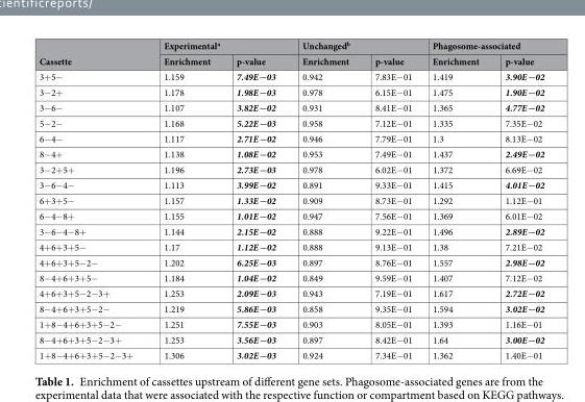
<table><thead><tr><td rowspan="2">Cassette</td><td colspan="2">Experimental<sup>a</sup></td><td colspan="2">Unchanged<sup>b</sup></td><td colspan="2">Phagosome-associated</td></tr><tr><td>Enrichment</td><td>p-value</td><td>Enrichment</td><td>p-value</td><td>Enrichment</td><td>p-value</td></tr></thead><tbody><tr><td>3+5−</td><td>1.159</td><td>7.49E−03</td><td>0.942</td><td>7.83E−01</td><td>1.419</td><td>3.90E−02</td></tr><tr><td>3−2+</td><td>1.178</td><td>1.98E−03</td><td>0.978</td><td>6.15E−01</td><td>1.475</td><td>1.90E−02</td></tr><tr><td>3−6−</td><td>1.107</td><td>3.82E−02</td><td>0.931</td><td>8.41E−01</td><td>1.365</td><td>4.77E−02</td></tr><tr><td>5−2−</td><td>1.168</td><td>5.22E−03</td><td>0.958</td><td>7.12E−01</td><td>1.335</td><td>7.35E−02</td></tr><tr><td>6−4−</td><td>1.117</td><td>2.71E−02</td><td>0.946</td><td>7.79E−01</td><td>1.3</td><td>8.13E−02</td></tr><tr><td>8−4+</td><td>1.138</td><td>1.08E−02</td><td>0.953</td><td>7.49E−01</td><td>1.437</td><td>2.49E−02</td></tr><tr><td>3−2+5+</td><td>1.196</td><td>2.73E−03</td><td>0.978</td><td>6.02E−01</td><td>1.372</td><td>6.69E−02</td></tr><tr><td>3−6−4−</td><td>1.113</td><td>3.99E−02</td><td>0.891</td><td>9.33E−01</td><td>1.415</td><td>4.01E−02</td></tr><tr><td>6+3+5−</td><td>1.157</td><td>1.33E−02</td><td>0.909</td><td>8.73E−01</td><td>1.292</td><td>1.12E−01</td></tr><tr><td>6−4−8+</td><td>1.155</td><td>1.01E−02</td><td>0.947</td><td>7.56E−01</td><td>1.369</td><td>6.01E−02</td></tr><tr><td>3−6−4−8+</td><td>1.144</td><td>2.15E−02</td><td>0.888</td><td>9.22E−01</td><td>1.496</td><td>2.89E−02</td></tr><tr><td>4+6+3+5−</td><td>1.17</td><td>1.12E−02</td><td>0.888</td><td>9.13E−01</td><td>1.38</td><td>7.21E−02</td></tr><tr><td>4+6+3+5−2−</td><td>1.202</td><td>6.25E−03</td><td>0.897</td><td>8.76E−01</td><td>1.557</td><td>2.98E−02</td></tr><tr><td>8−4+6+3+5−</td><td>1.184</td><td>1.04E−02</td><td>0.849</td><td>9.59E−01</td><td>1.407</td><td>7.12E−02</td></tr><tr><td>4+6+3+5−2−3+</td><td>1.253</td><td>2.09E−03</td><td>0.943</td><td>7.19E−01</td><td>1.617</td><td>2.72E−02</td></tr><tr><td>8−4+6+3+5−2−</td><td>1.219</td><td>5.86E−03</td><td>0.858</td><td>9.35E−01</td><td>1.594</td><td>3.02E−02</td></tr><tr><td>1+8−4+6+3+5−2−</td><td>1.251</td><td>7.55E−03</td><td>0.903</td><td>8.05E−01</td><td>1.393</td><td>1.16E−01</td></tr><tr><td>8−4+6+3+5−2−3+</td><td>1.253</td><td>3.56E−03</td><td>0.897</td><td>8.42E−01</td><td>1.64</td><td>3.00E−02</td></tr><tr><td>1+8−4+6+3+5−2−3+</td><td>1.306</td><td>3.02E−03</td><td>0.924</td><td>7.34E−01</td><td>1.362</td><td>1.40E−01</td></tr></tbody></table>